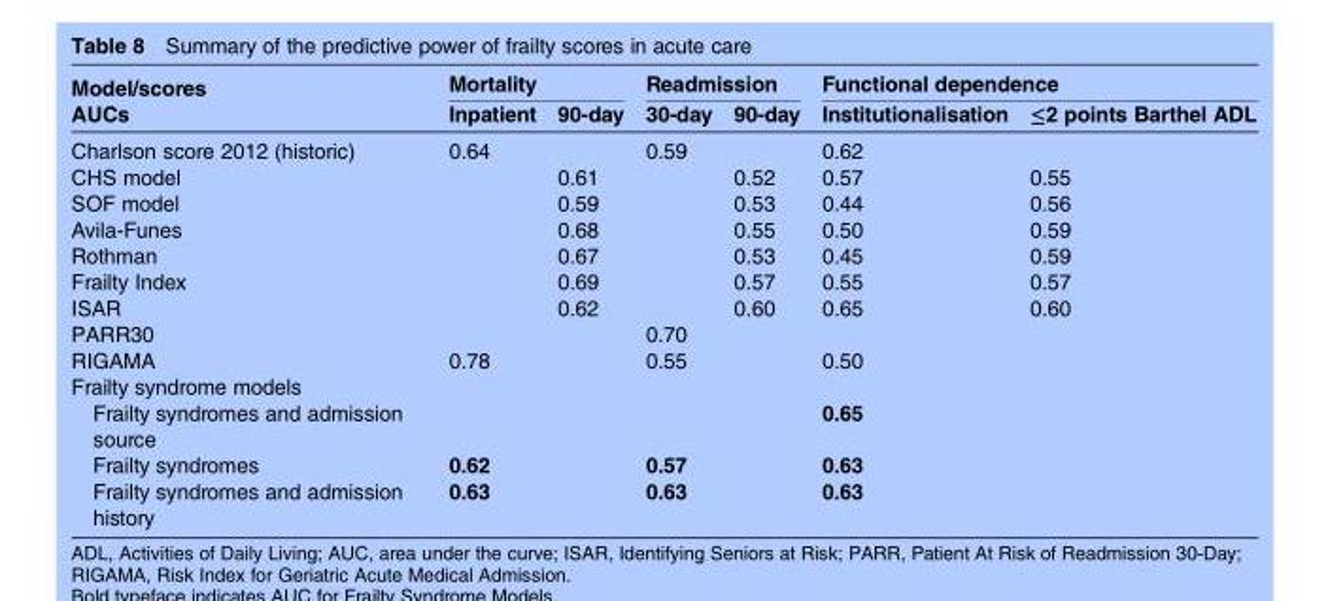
<table><thead><tr><td rowspan="2">Model/scores AUCs</td><td colspan="2">Mortality</td><td colspan="2">Readmission</td><td colspan="2">Functional dependence</td></tr><tr><td>Inpatient</td><td>90-day</td><td>30-day</td><td>90-day</td><td>Institutionalisation</td><td>≤2 points Barthel ADL</td></tr></thead><tbody><tr><td>Charlson score 2012 (historic)</td><td>0.64</td><td></td><td>0.59</td><td></td><td>0.62</td><td></td></tr><tr><td>CHS model</td><td></td><td>0.61</td><td></td><td>0.52</td><td>0.57</td><td>0.55</td></tr><tr><td>SOF model</td><td></td><td>0.59</td><td></td><td>0.53</td><td>0.44</td><td>0.56</td></tr><tr><td>Avila-Funes</td><td></td><td>0.68</td><td></td><td>0.55</td><td>0.50</td><td>0.59</td></tr><tr><td>Rothman</td><td></td><td>0.67</td><td></td><td>0.53</td><td>0.45</td><td>0.59</td></tr><tr><td>Frailty Index</td><td></td><td>0.69</td><td></td><td>0.57</td><td>0.55</td><td>0.57</td></tr><tr><td>ISAR</td><td></td><td>0.62</td><td></td><td>0.60</td><td>0.65</td><td>0.60</td></tr><tr><td>PARR30</td><td></td><td></td><td>0.70</td><td></td><td></td><td></td></tr><tr><td>RIGAMA</td><td>0.78</td><td></td><td>0.55</td><td></td><td>0.50</td><td></td></tr><tr><td colspan="7">Frailty syndrome models</td></tr><tr><td>Frailty syndromes and admission source</td><td></td><td></td><td></td><td></td><td>0.65</td><td></td></tr><tr><td>Frailty syndromes</td><td>0.62</td><td></td><td>0.57</td><td></td><td>0.63</td><td></td></tr><tr><td>Frailty syndromes and admission history</td><td>0.63</td><td></td><td>0.63</td><td></td><td>0.63</td><td></td></tr></tbody></table>